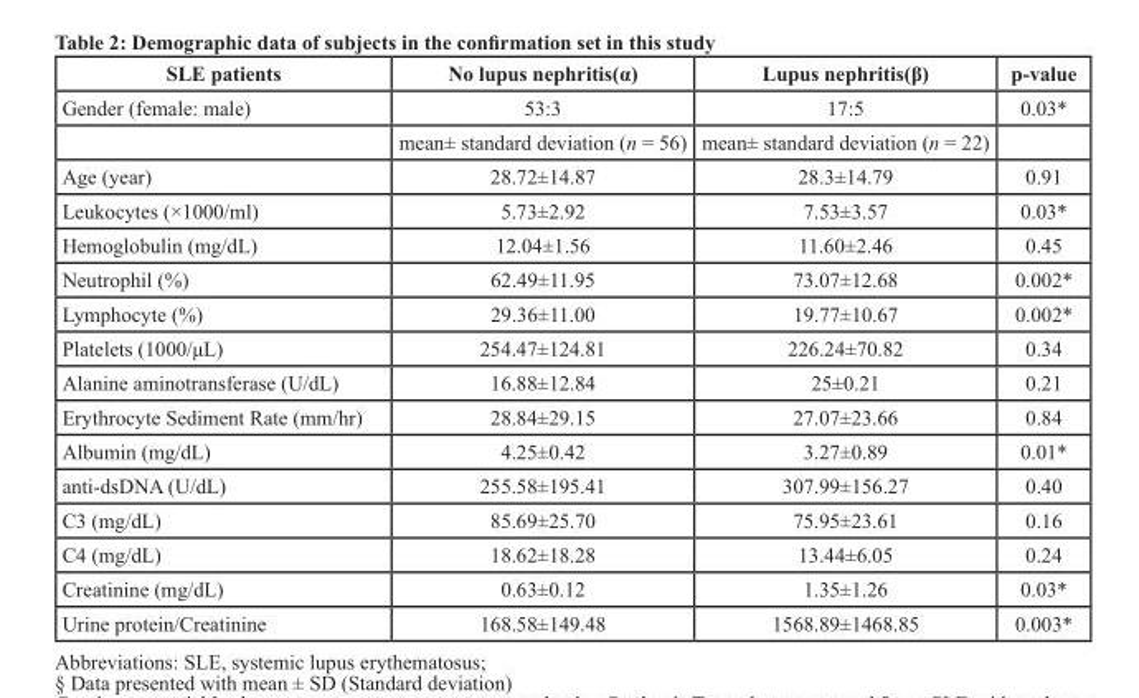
<table><thead><tr><td>SLE patients</td><td>No lupus nephritis(α)</td><td>Lupus nephritis(β)</td><td>p-value</td></tr></thead><tbody><tr><td rowspan="2">Gender (female: male)</td><td>53:3</td><td>17:5</td><td>0.03*</td></tr><tr><td>mean± standard deviation (n = 56)</td><td>mean± standard deviation (n = 22)</td><td></td></tr><tr><td>Age (year)</td><td>28.72±14.87</td><td>28.3±14.79</td><td>0.91</td></tr><tr><td>Leukocytes (×1000/ml)</td><td>5.73±2.92</td><td>7.53±3.57</td><td>0.03*</td></tr><tr><td>Hemoglobulin (mg/dL)</td><td>12.04±1.56</td><td>11.60±2.46</td><td>0.45</td></tr><tr><td>Neutrophil (%)</td><td>62.49±11.95</td><td>73.07±12.68</td><td>0.002*</td></tr><tr><td>Lymphocyte (%)</td><td>29.36±11.00</td><td>19.77±10.67</td><td>0.002*</td></tr><tr><td>Platelets (1000/μL)</td><td>254.47±124.81</td><td>226.24±70.82</td><td>0.34</td></tr><tr><td>Alanine aminotransferase (U/dL)</td><td>16.88±12.84</td><td>25±0.21</td><td>0.21</td></tr><tr><td>Erythrocyte Sediment Rate (mm/hr)</td><td>28.84±29.15</td><td>27.07±23.66</td><td>0.84</td></tr><tr><td>Albumin (mg/dL)</td><td>4.25±0.42</td><td>3.27±0.89</td><td>0.01*</td></tr><tr><td>anti-dsDNA (U/dL)</td><td>255.58±195.41</td><td>307.99±156.27</td><td>0.40</td></tr><tr><td>C3 (mg/dL)</td><td>85.69±25.70</td><td>75.95±23.61</td><td>0.16</td></tr><tr><td>C4 (mg/dL)</td><td>18.62±18.28</td><td>13.44±6.05</td><td>0.24</td></tr><tr><td>Creatinine (mg/dL)</td><td>0.63±0.12</td><td>1.35±1.26</td><td>0.03*</td></tr><tr><td>Urine protein/Creatinine</td><td>168.58±149.48</td><td>1568.89±1468.85</td><td>0.003*</td></tr></tbody></table>